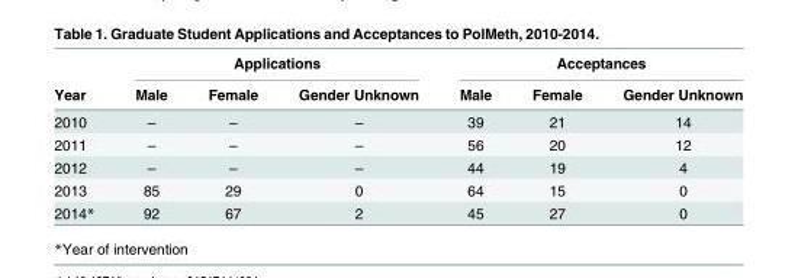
<table><thead><tr><td rowspan="2">Year</td><td colspan="3">Applications</td><td colspan="3">Acceptances</td></tr><tr><td>Male</td><td>Female</td><td>Gender Unknown</td><td>Male</td><td>Female</td><td>Gender Unknown</td></tr></thead><tbody><tr><td>2010</td><td>–</td><td>–</td><td>–</td><td>39</td><td>21</td><td>14</td></tr><tr><td>2011</td><td>–</td><td>–</td><td>–</td><td>56</td><td>20</td><td>12</td></tr><tr><td>2012</td><td>–</td><td>–</td><td>–</td><td>44</td><td>19</td><td>4</td></tr><tr><td>2013</td><td>85</td><td>29</td><td>0</td><td>64</td><td>15</td><td>0</td></tr><tr><td>2014*</td><td>92</td><td>67</td><td>2</td><td>45</td><td>27</td><td>0</td></tr></tbody></table>